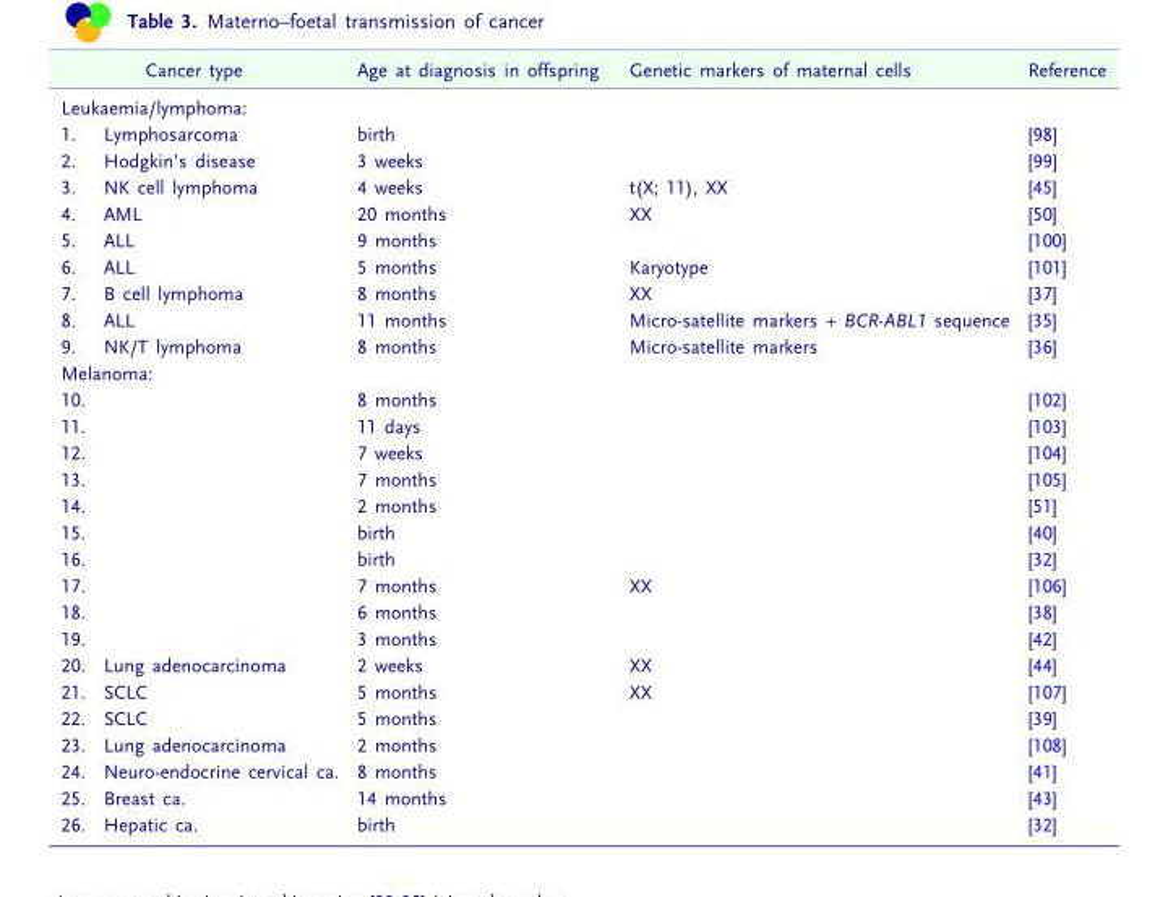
<table><thead><tr><td rowspan="2" colspan="2">Cancer type Leukaemia/lymphoma:</td><td rowspan="3">Age at diagnosis in offspring birth</td><td rowspan="3">Genetic markers of maternal cells</td><td rowspan="3">Reference [98]</td></tr><tr></tr><tr><td>1.</td><td>Lymphosarcoma</td></tr></thead><tbody><tr><td>2.</td><td>Hodgkin’s disease</td><td>3 weeks</td><td></td><td>[99]</td></tr><tr><td>3.</td><td>NK cell lymphoma</td><td>4 weeks</td><td>t(X; 11), XX</td><td>[45]</td></tr><tr><td>4.</td><td>AML</td><td>20 months</td><td>XX</td><td>[50]</td></tr><tr><td>5.</td><td>ALL</td><td>9 months</td><td></td><td>[100]</td></tr><tr><td>6.</td><td>ALL</td><td>5 months</td><td>Karyotype</td><td>[101]</td></tr><tr><td>7.</td><td>B cell lymphoma</td><td>8 months</td><td>XX</td><td>[37]</td></tr><tr><td>8.</td><td>ALL</td><td>11 months</td><td>Micro-satellite markers + BCR-ABL1 sequence</td><td>[35]</td></tr><tr><td>9.</td><td>NK/T lymphoma</td><td>8 months</td><td>Micro-satellite markers</td><td>[36]</td></tr><tr><td colspan="5">Melanoma:</td></tr><tr><td>10.</td><td></td><td>8 months</td><td></td><td>[102]</td></tr><tr><td>11.</td><td></td><td>11 days</td><td></td><td>[103]</td></tr><tr><td>12.</td><td></td><td>7 weeks</td><td></td><td>[104]</td></tr><tr><td>13.</td><td></td><td>7 months</td><td></td><td>[105]</td></tr><tr><td>14.</td><td></td><td>2 months</td><td></td><td>[51]</td></tr><tr><td>15.</td><td></td><td>birth</td><td></td><td>[40]</td></tr><tr><td>16.</td><td></td><td>birth</td><td></td><td>[32]</td></tr><tr><td>17.</td><td></td><td>7 months</td><td>XX</td><td>[106]</td></tr><tr><td>18.</td><td></td><td>6 months</td><td></td><td>[38]</td></tr><tr><td>19.</td><td></td><td>3 months</td><td></td><td>[42]</td></tr><tr><td>20.</td><td>Lung adenocarcinoma</td><td>2 weeks</td><td>XX</td><td>[44]</td></tr><tr><td>21.</td><td>SCLC</td><td>5 months</td><td>XX</td><td>[107]</td></tr><tr><td>22.</td><td>SCLC</td><td>5 months</td><td></td><td>[39]</td></tr><tr><td>23.</td><td>Lung adenocarcinoma</td><td>2 months</td><td></td><td>[108]</td></tr><tr><td>24.</td><td>Neuro-endocrine cervical ca.</td><td>8 months</td><td></td><td>[41]</td></tr><tr><td>25.</td><td>Breast ca.</td><td>14 months</td><td></td><td>[43]</td></tr><tr><td>26.</td><td>Hepatic ca.</td><td>birth</td><td></td><td>[32]</td></tr></tbody></table>